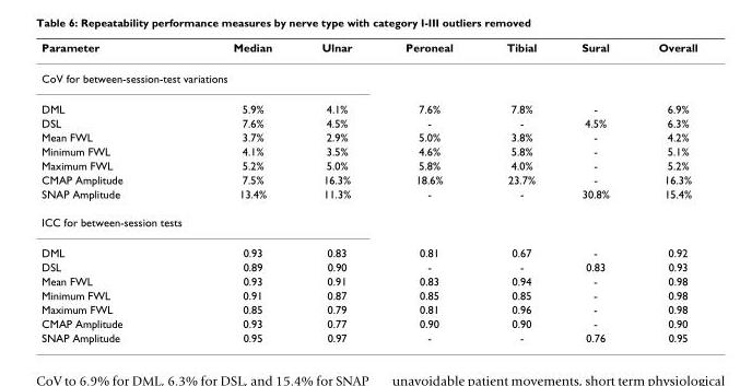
<table><thead><tr><td>Parameter</td><td>Median</td><td>Ulnar</td><td>Peroneal</td><td>Tibial</td><td>Sural</td><td>Overall</td></tr></thead><tbody><tr><td colspan="7">CoV for between-session-test variations</td></tr><tr><td>DML</td><td>5.9%</td><td>4.1%</td><td>7.6%</td><td>7.8%</td><td>-</td><td>6.9%</td></tr><tr><td>DSL</td><td>7.6%</td><td>4.5%</td><td>-</td><td>-</td><td>4.5%</td><td>6.3%</td></tr><tr><td>Mean FWL</td><td>3.7%</td><td>2.9%</td><td>5.0%</td><td>3.8%</td><td>-</td><td>4.2%</td></tr><tr><td>Minimum FWL</td><td>4.1%</td><td>3.5%</td><td>4.6%</td><td>5.8%</td><td>-</td><td>5.1%</td></tr><tr><td>Maximum FWL</td><td>5.2%</td><td>5.0%</td><td>5.8%</td><td>4.0%</td><td>-</td><td>5.2%</td></tr><tr><td>CMAP Amplitude</td><td>7.5%</td><td>16.3%</td><td>18.6%</td><td>23.7%</td><td>-</td><td>16.3%</td></tr><tr><td>SNAP Amplitude</td><td>13.4%</td><td>11.3%</td><td>-</td><td>-</td><td>30.8%</td><td>15.4%</td></tr><tr><td colspan="7">ICC for between-session tests</td></tr><tr><td>DML</td><td>0.93</td><td>0.83</td><td>0.81</td><td>0.67</td><td>-</td><td>0.92</td></tr><tr><td>DSL</td><td>0.89</td><td>0.90</td><td>-</td><td>-</td><td>0.83</td><td>0.93</td></tr><tr><td>Mean FWL</td><td>0.93</td><td>0.91</td><td>0.83</td><td>0.94</td><td>-</td><td>0.98</td></tr><tr><td>Minimum FWL</td><td>0.91</td><td>0.87</td><td>0.85</td><td>0.85</td><td>-</td><td>0.98</td></tr><tr><td>Maximum FWL</td><td>0.85</td><td>0.79</td><td>0.81</td><td>0.96</td><td>-</td><td>0.98</td></tr><tr><td>CMAP Amplitude</td><td>0.93</td><td>0.77</td><td>0.90</td><td>0.90</td><td>-</td><td>0.90</td></tr><tr><td>SNAP Amplitude</td><td>0.95</td><td>0.97</td><td>-</td><td>-</td><td>0.76</td><td>0.95</td></tr></tbody></table>